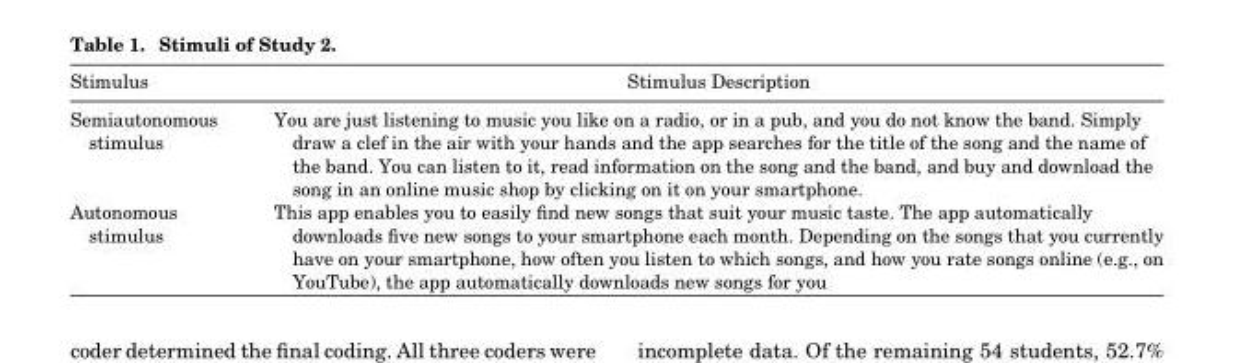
<table><thead><tr><td>Stimulus</td><td>Stimulus Description</td></tr></thead><tbody><tr><td>Semiautonomous stimulus</td><td>You are just listening to music you like on a radio, or in a pub, and you do not know the band. Simply draw a clef in the air with your hands and the app searches for the title of the song and the name of the band. You can listen to it, read information on the song and the band, and buy and download the song in an online music shop by clicking on it on your smartphone.</td></tr><tr><td>Autonomous stimulus</td><td>This app enables you to easily find new songs that suit your music taste. The app automatically downloads five new songs to your smartphone each month. Depending on the songs that you currently have on your smartphone, how often you listen to which songs, and how you rate songs online (e.g., on YouTube), the app automatically downloads new songs for you</td></tr></tbody></table>